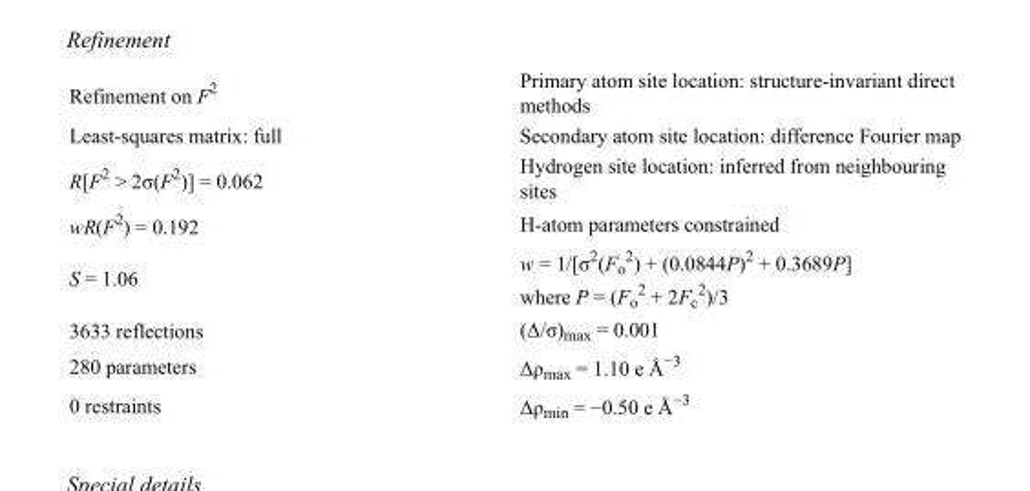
<table><tbody><tr><td>Refinement on F<sup>2</sup></td><td>Primary atom site location: structure-invariant direct methods</td></tr><tr><td>Least-squares matrix: full</td><td>Secondary atom site location: difference Fourier map</td></tr><tr><td>R[F<sup>2</sup> &gt; 2σ(F<sup>2</sup>)] = 0.062</td><td>Hydrogen site location: inferred from neighbouring sites</td></tr><tr><td>wR(F<sup>2</sup>) = 0.192</td><td>H-atom parameters constrained</td></tr><tr><td>S = 1.06</td><td>w = 1/[σ<sup>2</sup>(F<sub>o</sub> <sup>2</sup>) + (0.0844P)<sup>2</sup> + 0.3689P] where P = (F<sub>o</sub> <sup>2</sup> + 2F<sub>c</sub> <sup>2</sup>)/3</td></tr><tr><td>3633 reflections</td><td>(Δ/σ)<sub>max</sub> = 0.001</td></tr><tr><td>280 parameters</td><td>Δρ<sub>max</sub> = 1.10 e Å<sup>−3</sup></td></tr><tr><td>0 restraints</td><td>Δρ<sub>min</sub> = −0.50 e Å<sup>−3</sup></td></tr></tbody></table>